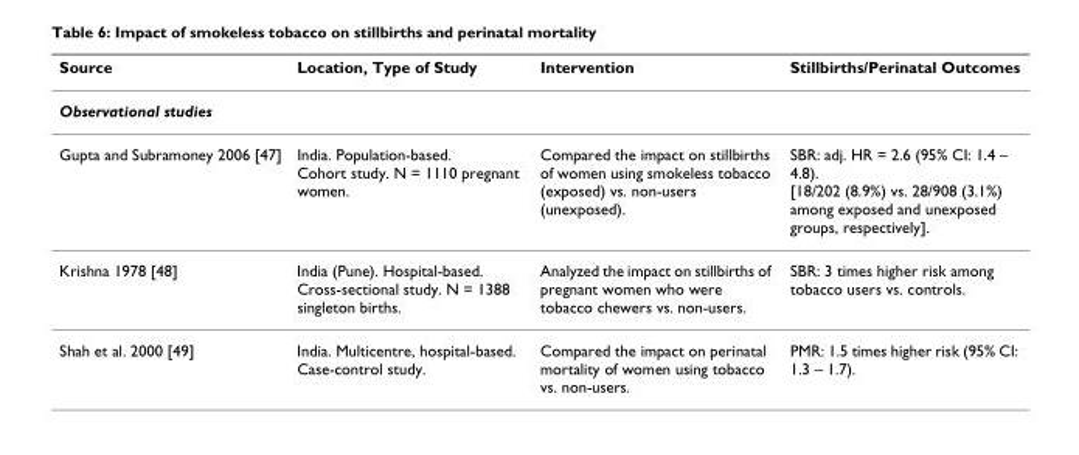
<table><thead><tr><td>Source</td><td>Location, Type of Study</td><td>Intervention</td><td>Stillbirths/Perinatal Outcomes</td></tr></thead><tbody><tr><td colspan="4">Observational studies</td></tr><tr><td>Gupta and Subramoney 2006 [47]</td><td>India. Population-based. Cohort study. N = 1110 pregnant women.</td><td>Compared the impact on stillbirths of women using smokeless tobacco (exposed) vs. non-users (unexposed).</td><td>SBR: adj. HR = 2.6 (95% CI: 1.4 – 4.8). [18/202 (8.9%) vs. 28/908 (3.1%) among exposed and unexposed groups, respectively].</td></tr><tr><td>Krishna 1978 [48]</td><td>India (Pune). Hospital-based. Cross-sectional study. N = 1388 singleton births.</td><td>Analyzed the impact on stillbirths of pregnant women who were tobacco chewers vs. non-users.</td><td>SBR: 3 times higher risk among tobacco users vs. controls.</td></tr><tr><td>Shah et al. 2000 [49]</td><td>India. Multicentre, hospital-based. Case-control study.</td><td>Compared the impact on perinatal mortality of women using tobacco vs. non-users.</td><td>PMR: 1.5 times higher risk (95% CI: 1.3 – 1.7).</td></tr></tbody></table>